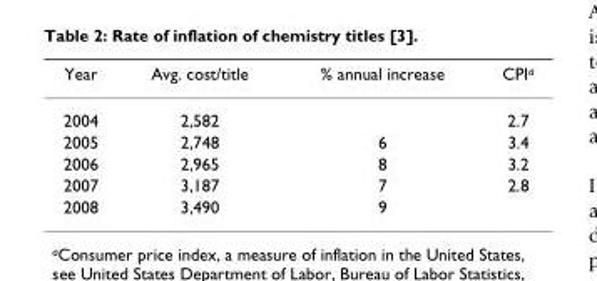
<table><thead><tr><td>Year</td><td>Avg. cost/title</td><td>% annual increase</td><td>CPI<sup>a</sup></td></tr></thead><tbody><tr><td>2004</td><td>2,582</td><td></td><td>2.7</td></tr><tr><td>2005</td><td>2,748</td><td>6</td><td>3.4</td></tr><tr><td>2006</td><td>2,965</td><td>8</td><td>3.2</td></tr><tr><td>2007</td><td>3,187</td><td>7</td><td>2.8</td></tr><tr><td>2008</td><td>3,490</td><td>9</td><td></td></tr></tbody></table>